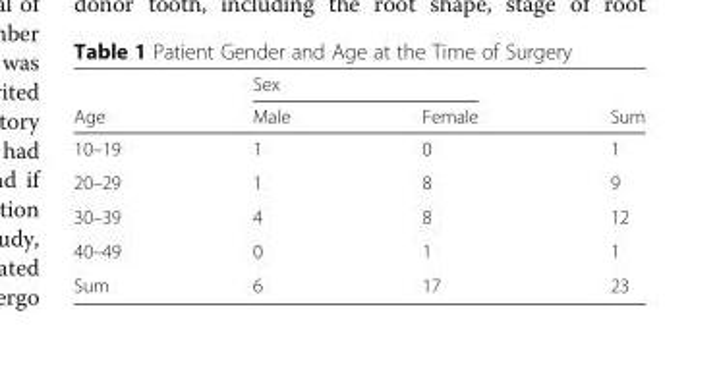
<table><thead><tr><td rowspan="2">Age</td><td colspan="2">Sex</td><td rowspan="2">Sum</td></tr><tr><td>Male</td><td>Female</td></tr></thead><tbody><tr><td>10–19</td><td>1</td><td>0</td><td>1</td></tr><tr><td>20–29</td><td>1</td><td>8</td><td>9</td></tr><tr><td>30–39</td><td>4</td><td>8</td><td>12</td></tr><tr><td>40–49</td><td>0</td><td>1</td><td>1</td></tr><tr><td>Sum</td><td>6</td><td>17</td><td>23</td></tr></tbody></table>